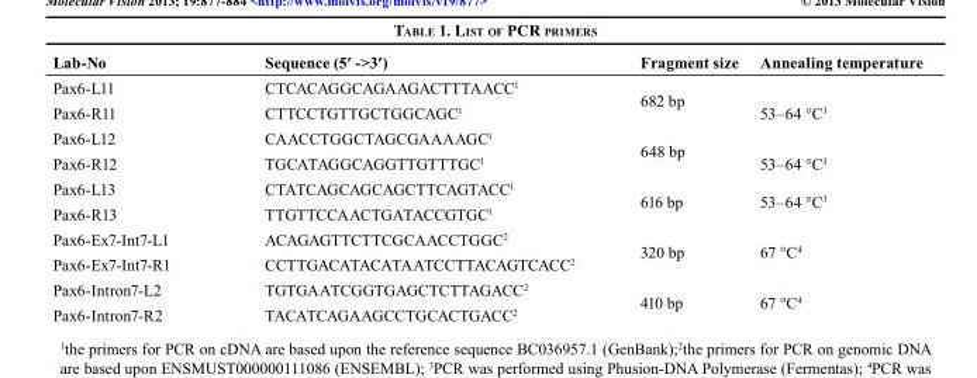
<table><thead><tr><td>Lab-No</td><td>Sequence (5′ -&gt;3′)</td><td>Fragment size</td><td>Annealing temperature</td></tr></thead><tbody><tr><td>Pax6-L11</td><td>CTCACAGGCAGAAGACTTTAACC<sup>1</sup></td><td rowspan="2">682 bp</td><td rowspan="2">53–64 °C<sup>3</sup></td></tr><tr><td>Pax6-R11</td><td>CTTCCTGTTGCTGGCAGC<sup>1</sup></td></tr><tr><td>Pax6-L12</td><td>CAACCTGGCTAGCGAAAAGC<sup>1</sup></td><td rowspan="2">648 bp</td><td rowspan="2">53–64 °C<sup>3</sup></td></tr><tr><td>Pax6-R12</td><td>TGCATAGGCAGGTTGTTTGC<sup>1</sup></td></tr><tr><td>Pax6-L13</td><td>CTATCAGCAGCAGCTTCAGTACC<sup>1</sup></td><td rowspan="2">616 bp</td><td rowspan="2">53–64 °C<sup>3</sup></td></tr><tr><td>Pax6-R13</td><td>TTGTTCCAACTGATACCGTGC<sup>1</sup></td></tr><tr><td>Pax6-Ex7-Int7-L1</td><td>ACAGAGTTCTTCGCAACCTGGC<sup>2</sup></td><td rowspan="2">320 bp</td><td rowspan="2">67 °C<sup>4</sup></td></tr><tr><td>Pax6-Ex7-Int7-R1</td><td>CCTTGACATACATAATCCTTACAGTCACC<sup>2</sup></td></tr><tr><td>Pax6-Intron7-L2</td><td>TGTGAATCGGTGAGCTCTTAGACC<sup>2</sup></td><td rowspan="2">410 bp</td><td rowspan="2">67 °C<sup>4</sup></td></tr><tr><td>Pax6-Intron7-R2</td><td>TACATCAGAAGCCTGCACTGACC<sup>2</sup></td></tr></tbody></table>